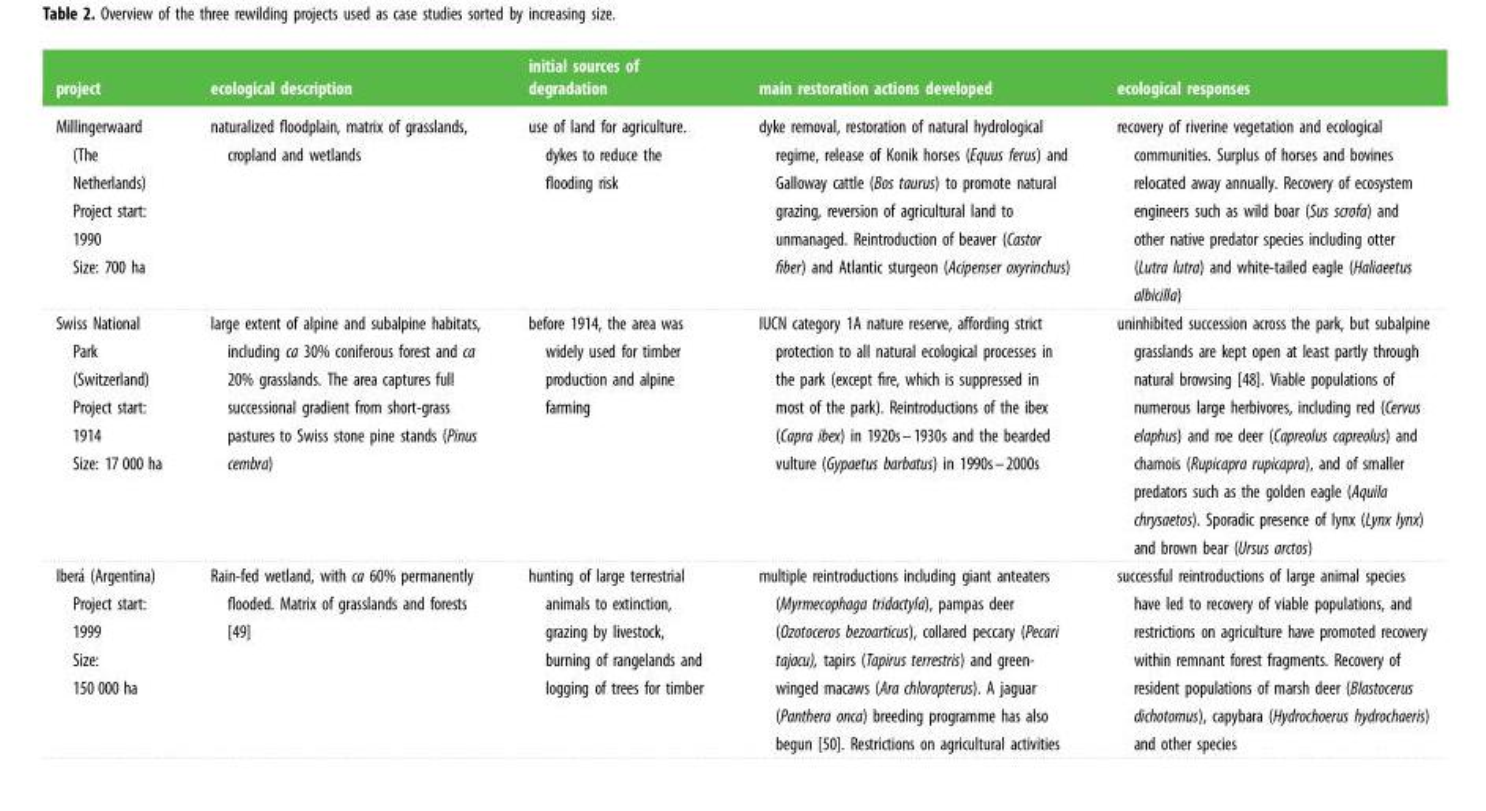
<table><thead><tr><td>project</td><td>ecological description</td><td>initial sources of degradation</td><td>main restoration actions developed</td><td>ecological responses</td></tr></thead><tbody><tr><td>Millingerwaard (The Netherlands) Project start: 1990 Size: 700 ha</td><td>naturalized floodplain, matrix of grasslands, cropland and wetlands</td><td>use of land for agriculture. dykes to reduce the flooding risk</td><td>dyke removal, restoration of natural hydrological regime, release of Konik horses (Equus ferus) and Galloway cattle (Bos taurus) to promote natural grazing, reversion of agricultural land to unmanaged. Reintroduction of beaver (Castor fiber) and Atlantic sturgeon (Acipenser oxyrinchus)</td><td>recovery of riverine vegetation and ecological communities. Surplus of horses and bovines relocated away annually. Recovery of ecosystem engineers such as wild boar (Sus scrofa) and other native predator species including otter (Lutra lutra) and white-tailed eagle (Haliaeetus albicilla)</td></tr><tr><td>Swiss National Park (Switzerland) Project start: 1914 Size: 17 000 ha</td><td>large extent of alpine and subalpine habitats, including ca 30% coniferous forest and ca 20% grasslands. The area captures full successional gradient from short-grass pastures to Swiss stone pine stands (Pinus cembra)</td><td>before 1914, the area was widely used for timber production and alpine farming</td><td>IUCN category 1A nature reserve, affording strict protection to all natural ecological processes in the park (except fire, which is suppressed in most of the park). Reintroductions of the ibex (Capra ibex) in 1920s–1930s and the bearded vulture (Gypaetus barbatus) in 1990s–2000s</td><td>uninhibited succession across the park, but subalpine grasslands are kept open at least partly through natural browsing [48]. Viable populations of numerous large herbivores, including red (Cervus elaphus) and roe deer (Capreolus capreolus) and chamois (Rupicapra rupicapra), and of smaller predators such as the golden eagle (Aquila chrysaetos). Sporadic presence of lynx (Lynx lynx) and brown bear (Ursus arctos)</td></tr><tr><td>Ibera´ (Argentina) Project start: 1999 Size: 150 000 ha</td><td>Rain-fed wetland, with ca 60% permanently flooded. Matrix of grasslands and forests [49]</td><td>hunting of large terrestrial animals to extinction, grazing by livestock, burning of rangelands and logging of trees for timber</td><td>multiple reintroductions including giant anteaters (Myrmecophaga tridactyla), pampas deer (Ozotoceros bezoarticus), collared peccary (Pecari tajacu), tapirs (Tapirus terrestris) and green- winged macaws (Ara chloropterus). A jaguar (Panthera onca) breeding programme has also begun [50]. Restrictions on agricultural activities</td><td>successful reintroductions of large animal species have led to recovery of viable populations, and restrictions on agriculture have promoted recovery within remnant forest fragments. Recovery of resident populations of marsh deer (Blastocerus dichotomus), capybara (Hydrochoerus hydrochaeris) and other species</td></tr></tbody></table>